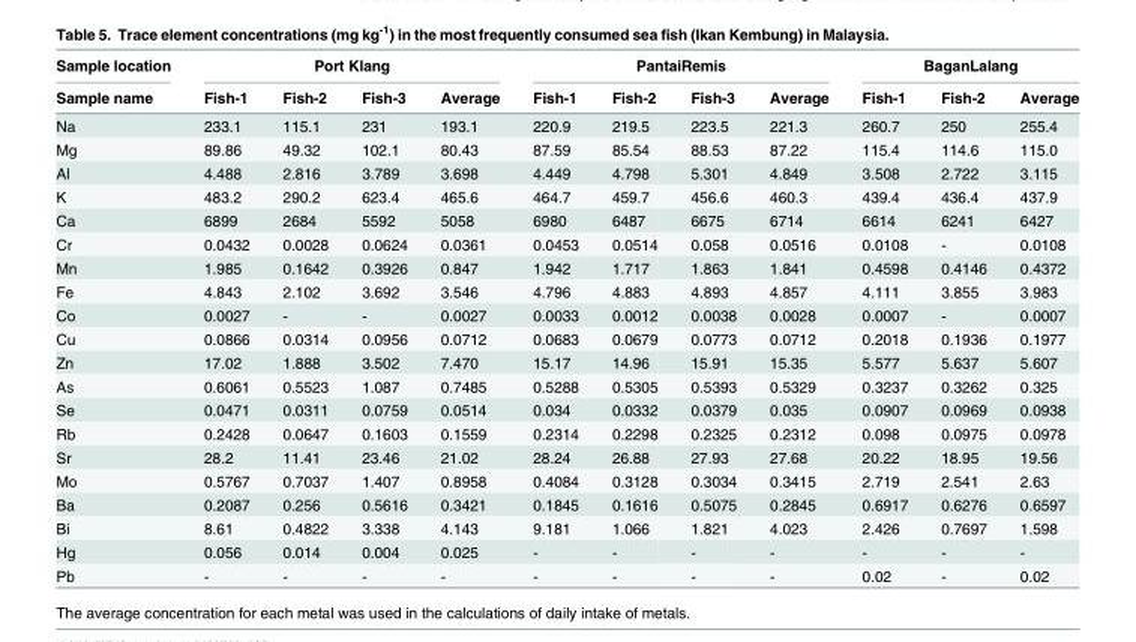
<table><thead><tr><td rowspan="2">Sample location Sample name</td><td colspan="4">Port Klang</td><td colspan="4">PantaiRemis</td><td colspan="3">BaganLalang</td></tr><tr><td>Fish-1</td><td>Fish-2</td><td>Fish-3</td><td>Average</td><td>Fish-1</td><td>Fish-2</td><td>Fish-3</td><td>Average</td><td>Fish-1</td><td>Fish-2</td><td>Average</td></tr></thead><tbody><tr><td>Na</td><td>233.1</td><td>115.1</td><td>231</td><td>193.1</td><td>220.9</td><td>219.5</td><td>223.5</td><td>221.3</td><td>260.7</td><td>250</td><td>255.4</td></tr><tr><td>Mg</td><td>89.86</td><td>49.32</td><td>102.1</td><td>80.43</td><td>87.59</td><td>85.54</td><td>88.53</td><td>87.22</td><td>115.4</td><td>114.6</td><td>115.0</td></tr><tr><td>Al</td><td>4.488</td><td>2.816</td><td>3.789</td><td>3.698</td><td>4.449</td><td>4.798</td><td>5.301</td><td>4.849</td><td>3.508</td><td>2.722</td><td>3.115</td></tr><tr><td>K</td><td>483.2</td><td>290.2</td><td>623.4</td><td>465.6</td><td>464.7</td><td>459.7</td><td>456.6</td><td>460.3</td><td>439.4</td><td>436.4</td><td>437.9</td></tr><tr><td>Ca</td><td>6899</td><td>2684</td><td>5592</td><td>5058</td><td>6980</td><td>6487</td><td>6675</td><td>6714</td><td>6614</td><td>6241</td><td>6427</td></tr><tr><td>Cr</td><td>0.0432</td><td>0.0028</td><td>0.0624</td><td>0.0361</td><td>0.0453</td><td>0.0514</td><td>0.058</td><td>0.0516</td><td>0.0108</td><td>-</td><td>0.0108</td></tr><tr><td>Mn</td><td>1.985</td><td>0.1642</td><td>0.3926</td><td>0.847</td><td>1.942</td><td>1.717</td><td>1.863</td><td>1.841</td><td>0.4598</td><td>0.4146</td><td>0.4372</td></tr><tr><td>Fe</td><td>4.843</td><td>2.102</td><td>3.692</td><td>3.546</td><td>4.796</td><td>4.883</td><td>4.893</td><td>4.857</td><td>4.111</td><td>3.855</td><td>3.983</td></tr><tr><td>Co</td><td>0.0027</td><td>-</td><td>-</td><td>0.0027</td><td>0.0033</td><td>0.0012</td><td>0.0038</td><td>0.0028</td><td>0.0007</td><td>-</td><td>0.0007</td></tr><tr><td>Cu</td><td>0.0866</td><td>0.0314</td><td>0.0956</td><td>0.0712</td><td>0.0683</td><td>0.0679</td><td>0.0773</td><td>0.0712</td><td>0.2018</td><td>0.1936</td><td>0.1977</td></tr><tr><td>Zn</td><td>17.02</td><td>1.888</td><td>3.502</td><td>7.470</td><td>15.17</td><td>14.96</td><td>15.91</td><td>15.35</td><td>5.577</td><td>5.637</td><td>5.607</td></tr><tr><td>As</td><td>0.6061</td><td>0.5523</td><td>1.087</td><td>0.7485</td><td>0.5288</td><td>0.5305</td><td>0.5393</td><td>0.5329</td><td>0.3237</td><td>0.3262</td><td>0.325</td></tr><tr><td>Se</td><td>0.0471</td><td>0.0311</td><td>0.0759</td><td>0.0514</td><td>0.034</td><td>0.0332</td><td>0.0379</td><td>0.035</td><td>0.0907</td><td>0.0969</td><td>0.0938</td></tr><tr><td>Rb</td><td>0.2428</td><td>0.0647</td><td>0.1603</td><td>0.1559</td><td>0.2314</td><td>0.2298</td><td>0.2325</td><td>0.2312</td><td>0.098</td><td>0.0975</td><td>0.0978</td></tr><tr><td>Sr</td><td>28.2</td><td>11.41</td><td>23.46</td><td>21.02</td><td>28.24</td><td>26.88</td><td>27.93</td><td>27.68</td><td>20.22</td><td>18.95</td><td>19.56</td></tr><tr><td>Mo</td><td>0.5767</td><td>0.7037</td><td>1.407</td><td>0.8958</td><td>0.4084</td><td>0.3128</td><td>0.3034</td><td>0.3415</td><td>2.719</td><td>2.541</td><td>2.63</td></tr><tr><td>Ba</td><td>0.2087</td><td>0.256</td><td>0.5616</td><td>0.3421</td><td>0.1845</td><td>0.1616</td><td>0.5075</td><td>0.2845</td><td>0.6917</td><td>0.6276</td><td>0.6597</td></tr><tr><td>Bi</td><td>8.61</td><td>0.4822</td><td>3.338</td><td>4.143</td><td>9.181</td><td>1.066</td><td>1.821</td><td>4.023</td><td>2.426</td><td>0.7697</td><td>1.598</td></tr><tr><td>Hg</td><td>0.056</td><td>0.014</td><td>0.004</td><td>0.025</td><td>-</td><td>-</td><td>-</td><td>-</td><td>-</td><td>-</td><td>-</td></tr><tr><td>Pb</td><td>-</td><td>-</td><td>-</td><td>-</td><td>-</td><td>-</td><td>-</td><td>-</td><td>0.02</td><td>-</td><td>0.02</td></tr></tbody></table>